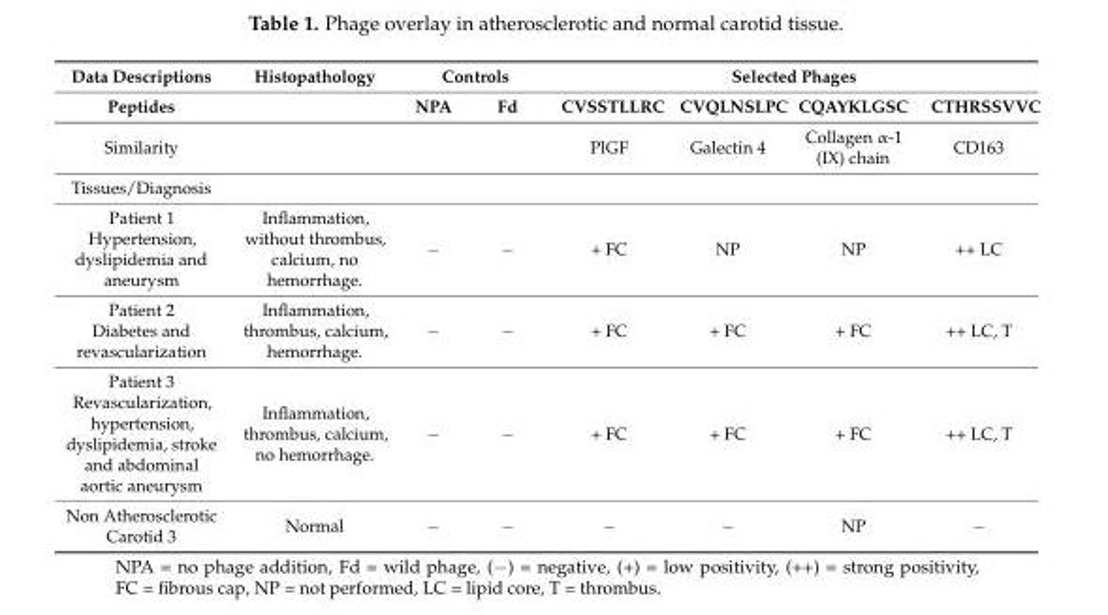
<table><thead><tr><td rowspan="2">Data Descriptions Peptides</td><td rowspan="2">Histopathology</td><td colspan="2">Controls</td><td colspan="4">Selected Phages</td></tr><tr><td>NPA</td><td>Fd</td><td>CVSSTLLRC</td><td>CVQLNSLPC</td><td>CQAYKLGSC</td><td>CTHRSSVVC</td></tr></thead><tbody><tr><td>Similarity</td><td></td><td></td><td></td><td>PlGF</td><td>Galectin 4</td><td>Collagen α-1 (IX) chain</td><td>CD163</td></tr><tr><td colspan="8">Tissues/Diagnosis</td></tr><tr><td>Patient 1 Hypertension, dyslipidemia and aneurysm</td><td>Inflammation, without thrombus, calcium, no hemorrhage.</td><td>−</td><td>−</td><td>+ FC</td><td>NP</td><td>NP</td><td>++ LC</td></tr><tr><td>Patient 2 Diabetes and revascularization</td><td>Inflammation, thrombus, calcium, hemorrhage.</td><td>−</td><td>−</td><td>+ FC</td><td>+ FC</td><td>+ FC</td><td>++ LC, T</td></tr><tr><td>Patient 3 Revascularization, hypertension, dyslipidemia, stroke and abdominal aortic aneurysm</td><td>Inflammation, thrombus, calcium, no hemorrhage.</td><td>−</td><td>−</td><td>+ FC</td><td>+ FC</td><td>+ FC</td><td>++ LC, T</td></tr><tr><td>Non Atherosclerotic Carotid 3</td><td>Normal</td><td>−</td><td>−</td><td>−</td><td>−</td><td>NP</td><td>−</td></tr></tbody></table>